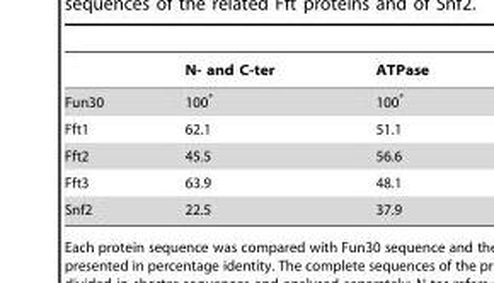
<table><thead><tr><td></td><td>N- and C-ter</td><td>ATPase</td></tr></thead><tbody><tr><td>Fun30</td><td>100*</td><td>100*</td></tr><tr><td>Fft1</td><td>62.1</td><td>51.1</td></tr><tr><td>Fft2</td><td>45.5</td><td>56.6</td></tr><tr><td>Fft3</td><td>63.9</td><td>48.1</td></tr><tr><td>Snf2</td><td>22.5</td><td>37.9</td></tr></tbody></table>